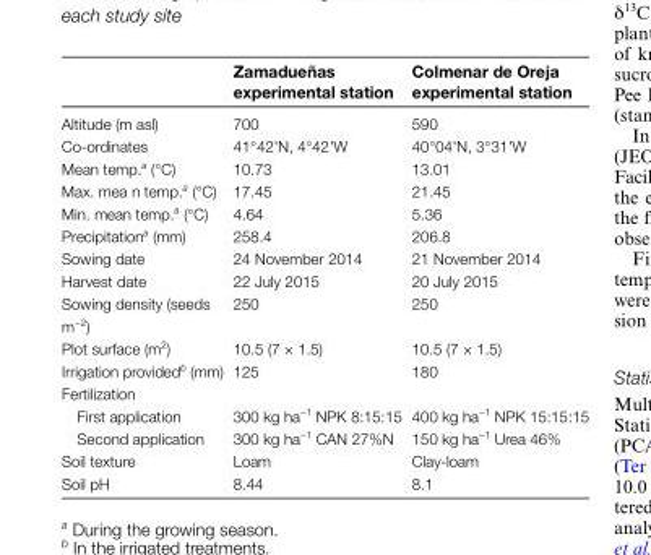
<table><thead><tr><td></td><td>Zamadueñas experimental station</td><td>Colmenar de Oreja experimental station</td></tr></thead><tbody><tr><td>Altitude (m asl)</td><td>700</td><td>590</td></tr><tr><td>Co-ordinates</td><td>41°42&#x27;N, 4°42&#x27;W</td><td>40°04&#x27;N, 3°31&#x27;W</td></tr><tr><td>Mean temp.<sup>a</sup> (°C)</td><td>10.73</td><td>13.01</td></tr><tr><td>Max. mea n temp.<sup>a</sup> (°C)</td><td>17.45</td><td>21.45</td></tr><tr><td>Min. mean temp.<sup>a</sup> (°C)</td><td>4.64</td><td>5.36</td></tr><tr><td>Precipitation<sup>a</sup> (mm)</td><td>258.4</td><td>206.8</td></tr><tr><td>Sowing date</td><td>24 November 2014</td><td>21 November 2014</td></tr><tr><td>Harvest date</td><td>22 July 2015</td><td>20 July 2015</td></tr><tr><td>Sowing density (seeds m<sup>−2</sup>)</td><td>250</td><td>250</td></tr><tr><td>Plot surface (m<sup>2</sup>)</td><td>10.5 (7 × 1.5)</td><td>10.5 (7 × 1.5)</td></tr><tr><td>Irrigation provided<sup>b</sup> (mm)</td><td>125</td><td>180</td></tr><tr><td colspan="3">Fertilization</td></tr><tr><td>First application</td><td>300 kg ha<sup>−1</sup> NPK 8:15:15</td><td>400 kg ha<sup>−1</sup> NPK 15:15:15</td></tr><tr><td>Second application</td><td>300 kg ha<sup>−1</sup> CAN 27%N</td><td>150 kg ha<sup>−1</sup> Urea 46%</td></tr><tr><td>Soil texture</td><td>Loam</td><td>Clay-loam</td></tr><tr><td>Soil pH</td><td>8.44</td><td>8.1</td></tr></tbody></table>